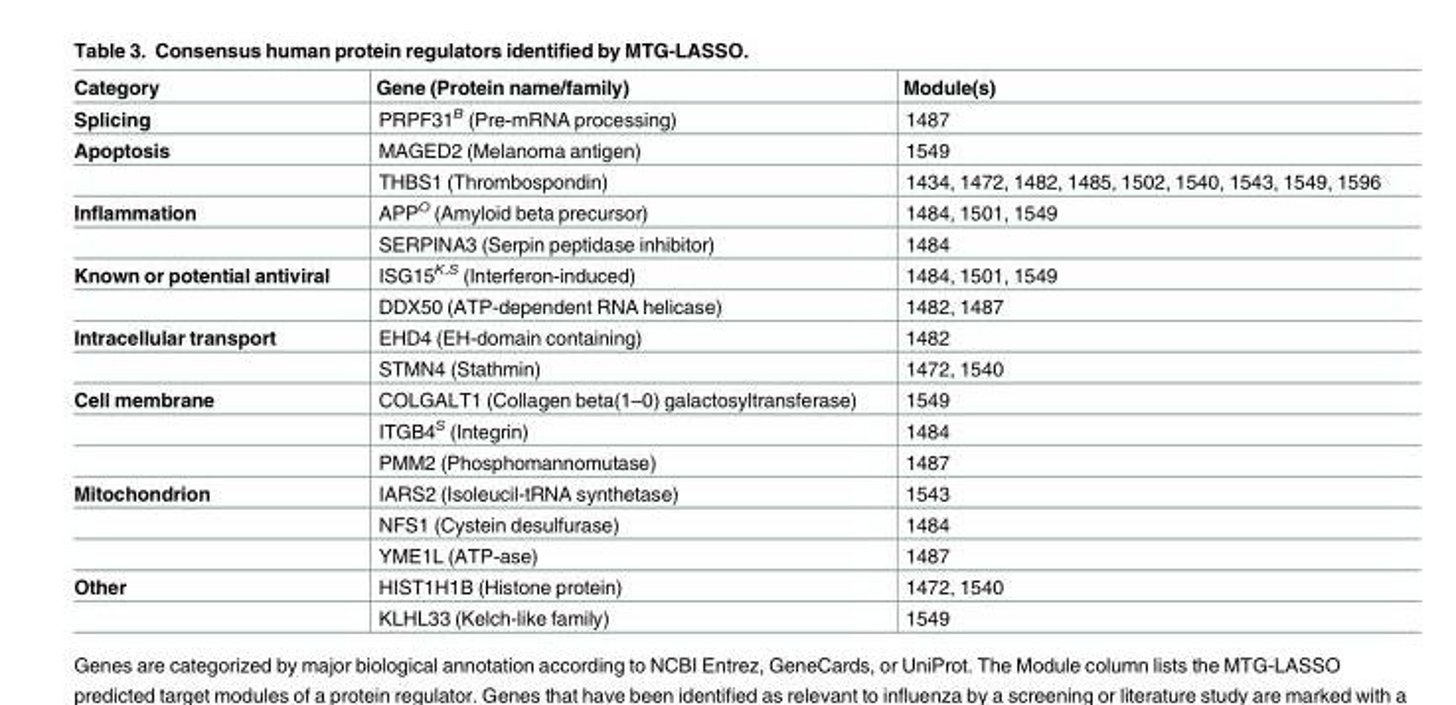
<table><thead><tr><td>Category</td><td>Gene (Protein name/family)</td><td>Module(s)</td></tr></thead><tbody><tr><td>Splicing</td><td>PRPF31<sup>B</sup> (Pre-mRNA processing)</td><td>1487</td></tr><tr><td rowspan="2">Apoptosis</td><td>MAGED2 (Melanoma antigen)</td><td>1549</td></tr><tr><td>THBS1 (Thrombospondin)</td><td>1434, 1472, 1482, 1485, 1502, 1540, 1543, 1549, 1596</td></tr><tr><td rowspan="2">Inflammation</td><td>APP<sup>O</sup> (Amyloid beta precursor)</td><td>1484, 1501, 1549</td></tr><tr><td>SERPINA3 (Serpin peptidase inhibitor)</td><td>1484</td></tr><tr><td rowspan="2">Known or potential antiviral</td><td>ISG15<sup>K,S</sup> (Interferon-induced)</td><td>1484, 1501, 1549</td></tr><tr><td>DDX50 (ATP-dependent RNA helicase)</td><td>1482, 1487</td></tr><tr><td rowspan="2">Intracellular transport</td><td>EHD4 (EH-domain containing)</td><td>1482</td></tr><tr><td>STMN4 (Stathmin)</td><td>1472, 1540</td></tr><tr><td rowspan="3">Cell membrane</td><td>COLGALT1 (Collagen beta(1–0) galactosyltransferase)</td><td>1549</td></tr><tr><td>ITGB4<sup>S</sup> (Integrin)</td><td>1484</td></tr><tr><td>PMM2 (Phosphomannomutase)</td><td>1487</td></tr><tr><td rowspan="3">Mitochondrion</td><td>IARS2 (Isoleucil-tRNA synthetase)</td><td>1543</td></tr><tr><td>NFS1 (Cystein desulfurase)</td><td>1484</td></tr><tr><td>YME1L (ATP-ase)</td><td>1487</td></tr><tr><td rowspan="2">Other</td><td>HIST1H1B (Histone protein)</td><td>1472, 1540</td></tr><tr><td>KLHL33 (Kelch-like family)</td><td>1549</td></tr></tbody></table>